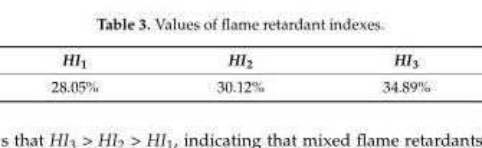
<table><thead><tr><td>HI<sub>1</sub></td><td>HI<sub>2</sub></td><td>HI<sub>3</sub></td></tr></thead><tbody><tr><td>28.05%</td><td>30.12%</td><td>34.89%</td></tr></tbody></table>